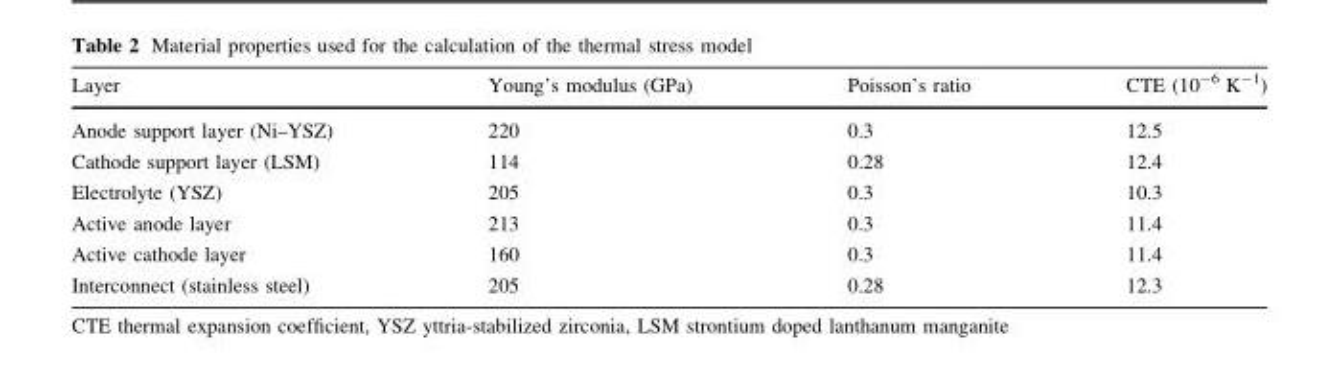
<table><thead><tr><td>Layer</td><td>Young’s modulus (GPa)</td><td>Poisson’s ratio</td><td>CTE (10<sup>-6</sup> K<sup>-1</sup>)</td></tr></thead><tbody><tr><td>Anode support layer (Ni–YSZ)</td><td>220</td><td>0.3</td><td>12.5</td></tr><tr><td>Cathode support layer (LSM)</td><td>114</td><td>0.28</td><td>12.4</td></tr><tr><td>Electrolyte (YSZ)</td><td>205</td><td>0.3</td><td>10.3</td></tr><tr><td>Active anode layer</td><td>213</td><td>0.3</td><td>11.4</td></tr><tr><td>Active cathode layer</td><td>160</td><td>0.3</td><td>11.4</td></tr><tr><td>Interconnect (stainless steel)</td><td>205</td><td>0.28</td><td>12.3</td></tr></tbody></table>